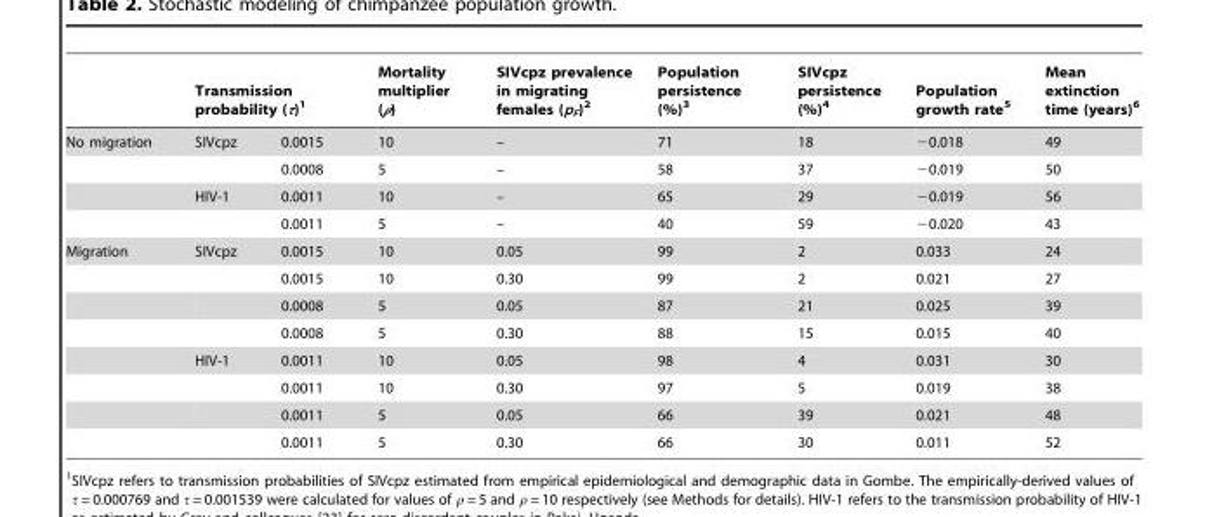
<table><thead><tr><td rowspan="2">No migration</td><td colspan="2">Transmission probability (τ)<sup>1</sup></td><td rowspan="2">Mortality multiplier (ρ) 10</td><td rowspan="2">SIVcpz prevalence in migrating females (p<sub>F</sub>)<sup>2</sup> –</td><td rowspan="2">Population persistence (%)<sup>3</sup> 71</td><td rowspan="2">SIVcpz persistence (%)<sup>4</sup> 18</td><td rowspan="2">Population growth rate<sup>5</sup> −0.018</td><td rowspan="2">Mean extinction time (years)<sup>6</sup> 49</td></tr><tr><td>SIVcpz</td><td>0.0015</td></tr></thead><tbody><tr><td></td><td></td><td>0.0008</td><td>5</td><td>–</td><td>58</td><td>37</td><td>−0.019</td><td>50</td></tr><tr><td></td><td>HIV-1</td><td>0.0011</td><td>10</td><td>–</td><td>65</td><td>29</td><td>−0.019</td><td>56</td></tr><tr><td></td><td></td><td>0.0011</td><td>5</td><td>–</td><td>40</td><td>59</td><td>−0.020</td><td>43</td></tr><tr><td rowspan="8">Migration</td><td>SIVcpz</td><td>0.0015</td><td>10</td><td>0.05</td><td>99</td><td>2</td><td>0.033</td><td>24</td></tr><tr><td></td><td>0.0015</td><td>10</td><td>0.30</td><td>99</td><td>2</td><td>0.021</td><td>27</td></tr><tr><td></td><td>0.0008</td><td>5</td><td>0.05</td><td>87</td><td>21</td><td>0.025</td><td>39</td></tr><tr><td></td><td>0.0008</td><td>5</td><td>0.30</td><td>88</td><td>15</td><td>0.015</td><td>40</td></tr><tr><td>HIV-1</td><td>0.0011</td><td>10</td><td>0.05</td><td>98</td><td>4</td><td>0.031</td><td>30</td></tr><tr><td></td><td>0.0011</td><td>10</td><td>0.30</td><td>97</td><td>5</td><td>0.019</td><td>38</td></tr><tr><td></td><td>0.0011</td><td>5</td><td>0.05</td><td>66</td><td>39</td><td>0.021</td><td>48</td></tr><tr><td></td><td>0.0011</td><td>5</td><td>0.30</td><td>66</td><td>30</td><td>0.011</td><td>52</td></tr></tbody></table>